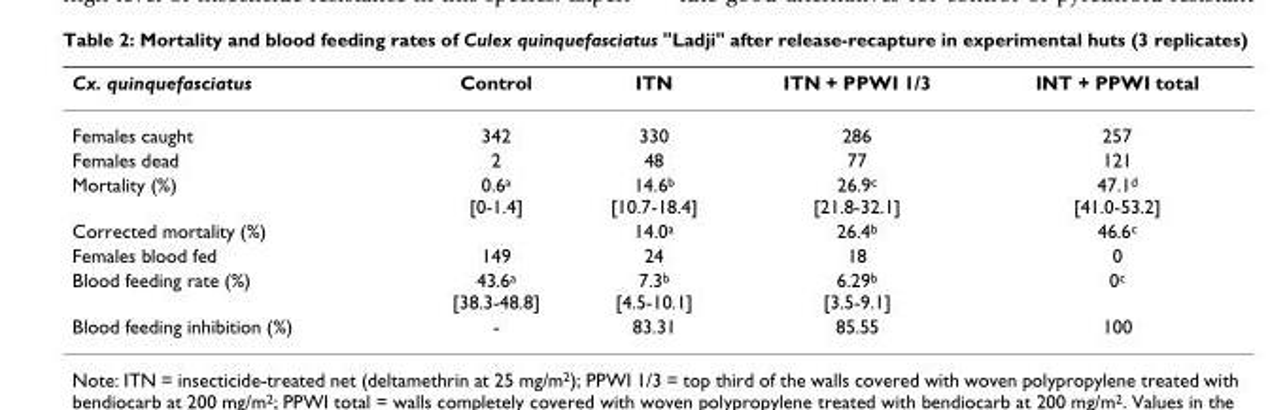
<table><thead><tr><td>Cx. quinquefasciatus</td><td>Control</td><td>ITN</td><td>ITN + PPWI 1/3</td><td>INT + PPWI total</td></tr></thead><tbody><tr><td>Females caught</td><td>342</td><td>330</td><td>286</td><td>257</td></tr><tr><td>Females dead</td><td>2</td><td>48</td><td>77</td><td>121</td></tr><tr><td>Mortality (%)</td><td>0.6<sup>a</sup> [0-1.4]</td><td>14.6<sup>b</sup> [10.7-18.4]</td><td>26.9<sup>c</sup> [21.8-32.1]</td><td>47.1<sup>d</sup> [41.0-53.2]</td></tr><tr><td>Corrected mortality (%)</td><td></td><td>14.0<sup>a</sup></td><td>26.4<sup>b</sup></td><td>46.6<sup>c</sup></td></tr><tr><td>Females blood fed</td><td>149</td><td>24</td><td>18</td><td>0</td></tr><tr><td>Blood feeding rate (%)</td><td>43.6<sup>a</sup> [38.3-48.8]</td><td>7.3<sup>b</sup> [4.5-10.1]</td><td>6.29<sup>b</sup> [3.5-9.1]</td><td>0<sup>c</sup></td></tr><tr><td>Blood feeding inhibition (%)</td><td>-</td><td>83.31</td><td>85.55</td><td>100</td></tr></tbody></table>